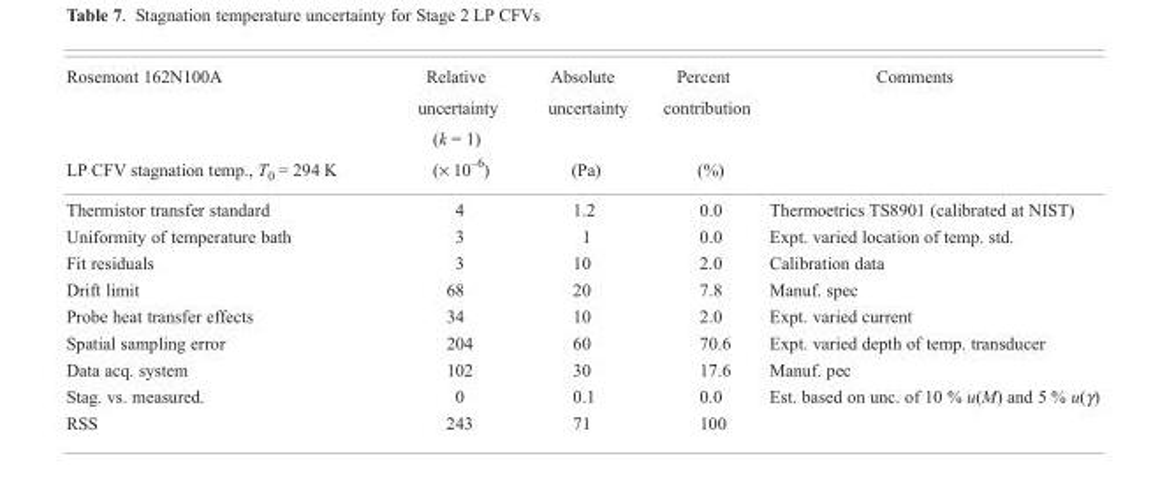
<table><thead><tr><td rowspan="2">Rosemont 162N100A LP CFV stagnation temp., T<sub>0</sub> = 294 K</td><td rowspan="2">Relative uncertainty (k = 1) (× 10<sup>–6</sup>)</td><td rowspan="2">Absolute uncertainty (Pa)</td><td rowspan="2">Percent contribution (%)</td><td rowspan="2">Comments</td></tr><tr></tr></thead><tbody><tr><td>Thermistor transfer standard</td><td>4</td><td>1.2</td><td>0.0</td><td>Thermoetrics TS8901 (calibrated at NIST)</td></tr><tr><td>Uniformity of temperature bath</td><td>3</td><td>1</td><td>0.0</td><td>Expt. varied location of temp. std.</td></tr><tr><td>Fit residuals</td><td>3</td><td>10</td><td>2.0</td><td>Calibration data</td></tr><tr><td>Drift limit</td><td>68</td><td>20</td><td>7.8</td><td>Manuf. spec</td></tr><tr><td>Probe heat transfer effects</td><td>34</td><td>10</td><td>2.0</td><td>Expt. varied current</td></tr><tr><td>Spatial sampling error</td><td>204</td><td>60</td><td>70.6</td><td>Expt. varied depth of temp. transducer</td></tr><tr><td>Data acq. system</td><td>102</td><td>30</td><td>17.6</td><td>Manuf. pec</td></tr><tr><td>Stag. vs. measured.</td><td>0</td><td>0.1</td><td>0.0</td><td>Est. based on unc. of 10 % u(M) and 5 % u(γ)</td></tr><tr><td>RSS</td><td>243</td><td>71</td><td>100</td><td></td></tr></tbody></table>